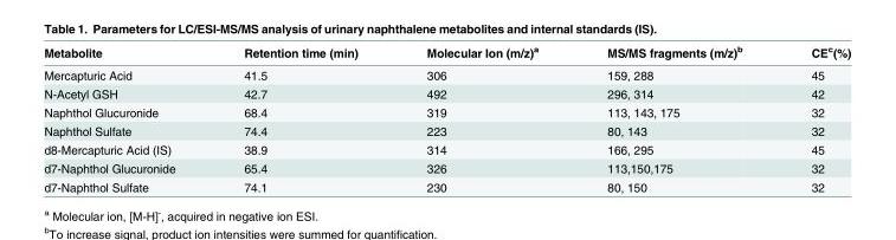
<table><thead><tr><td>Metabolite</td><td>Retention time (min)</td><td>Molecular Ion (m/z)<sup>a</sup></td><td>MS/MS fragments (m/z)<sup>b</sup></td><td>CE<sup>c</sup>(%)</td></tr></thead><tbody><tr><td>Mercapturic Acid</td><td>41.5</td><td>306</td><td>159, 288</td><td>45</td></tr><tr><td>N-Acetyl GSH</td><td>42.7</td><td>492</td><td>296, 314</td><td>42</td></tr><tr><td>Naphthol Glucuronide</td><td>68.4</td><td>319</td><td>113, 143, 175</td><td>32</td></tr><tr><td>Naphthol Sulfate</td><td>74.4</td><td>223</td><td>80, 143</td><td>32</td></tr><tr><td>d8-Mercapturic Acid (IS)</td><td>38.9</td><td>314</td><td>166, 295</td><td>45</td></tr><tr><td>d7-Naphthol Glucuronide</td><td>65.4</td><td>326</td><td>113,150,175</td><td>32</td></tr><tr><td>d7-Naphthol Sulfate</td><td>74.1</td><td>230</td><td>80, 150</td><td>32</td></tr></tbody></table>